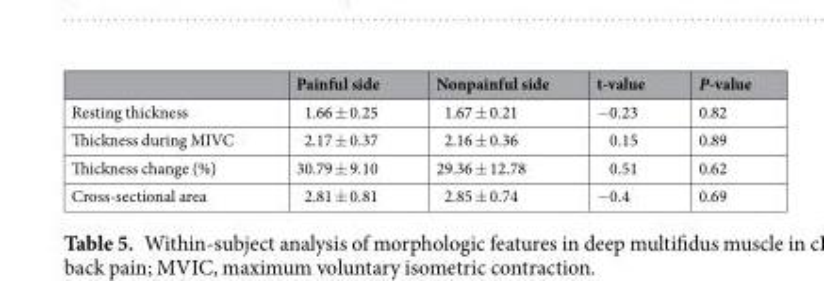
<table><thead><tr><td></td><td>Painful side</td><td>Nonpainful side</td><td>t-value</td><td>P-value</td></tr></thead><tbody><tr><td>Resting thickness</td><td>1.66 ± 0.25</td><td>1.67 ± 0.21</td><td>−0.23</td><td>0.82</td></tr><tr><td>Thickness during MIVC</td><td>2.17 ± 0.37</td><td>2.16 ± 0.36</td><td>0.15</td><td>0.89</td></tr><tr><td>Thickness change (%)</td><td>30.79 ± 9.10</td><td>29.36 ± 12.78</td><td>0.51</td><td>0.62</td></tr><tr><td>Cross-sectional area</td><td>2.81 ± 0.81</td><td>2.85 ± 0.74</td><td>−0.4</td><td>0.69</td></tr></tbody></table>